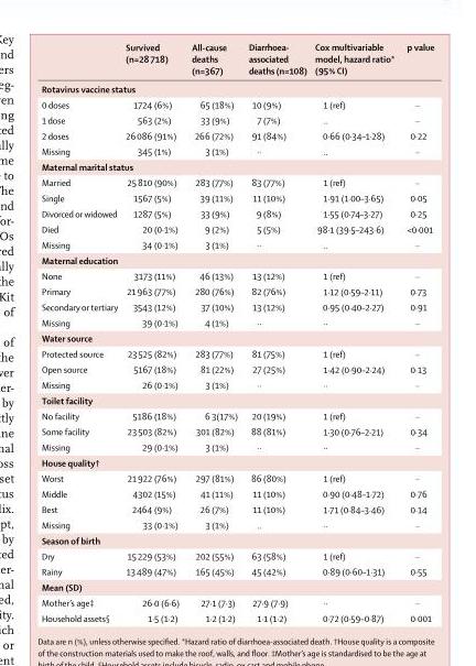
<table><thead><tr><td></td><td>Survived (n=28 718)</td><td>All-cause deaths (n=367)</td><td>Diarrhoea- associated deaths (n=108)</td><td>Cox multivariable model, hazard ratio* (95% CI)</td><td>p value</td></tr></thead><tbody><tr><td colspan="6">Rotavirus vaccine status</td></tr><tr><td>0 doses</td><td>1724 (6%)</td><td>65 (18%)</td><td>10 (9%)</td><td>1 (ref)</td><td>··</td></tr><tr><td>1 dose</td><td>563 (2%)</td><td>33 (9%)</td><td>7 (7%)</td><td>..</td><td>··</td></tr><tr><td>2 doses</td><td>26 086 (91%)</td><td>266 (72%)</td><td>91 (84%)</td><td>0·66 (0·34–1·28)</td><td>0·22</td></tr><tr><td>Missing</td><td>345 (1%)</td><td>3 (1%)</td><td>··</td><td>..</td><td>··</td></tr><tr><td colspan="6">Maternal marital status</td></tr><tr><td>Married</td><td>25 810 (90%)</td><td>283 (77%)</td><td>83 (77%)</td><td>1 (ref)</td><td>··</td></tr><tr><td>Single</td><td>1567 (5%)</td><td>39 (11%)</td><td>11 (10%)</td><td>1·91 (1·00–3·65)</td><td>0·05</td></tr><tr><td>Divorced or widowed</td><td>1287 (5%)</td><td>33 (9%)</td><td>9 (8%)</td><td>1·55 (0·74–3·27)</td><td>0·25</td></tr><tr><td>Died</td><td>20 (0·1%)</td><td>9 (2%)</td><td>5 (5%)</td><td>98·1 (39·5–243·6)</td><td>&lt;0·001</td></tr><tr><td>Missing</td><td>34 (0·1%)</td><td>3 (1%)</td><td>··</td><td>..</td><td>··</td></tr><tr><td colspan="6">Maternal education</td></tr><tr><td>None</td><td>3173 (11%)</td><td>46 (13%)</td><td>13 (12%)</td><td>1 (ref)</td><td>··</td></tr><tr><td>Primary</td><td>21 963 (77%)</td><td>280 (76%)</td><td>82 (76%)</td><td>1·12 (0·59–2·11)</td><td>0·73</td></tr><tr><td>Secondary or tertiary</td><td>3543 (12%)</td><td>37 (10%)</td><td>13 (12%)</td><td>0·95 (0·40–2·27)</td><td>0·91</td></tr><tr><td>Missing</td><td>39 (0·1%)</td><td>4 (1%)</td><td>··</td><td>··</td><td>··</td></tr><tr><td colspan="6">Water source</td></tr><tr><td>Protected source</td><td>23 525 (82%)</td><td>283 (77%)</td><td>81 (75%)</td><td>1 (ref)</td><td>··</td></tr><tr><td>Open source</td><td>5167 (18%)</td><td>81 (22%)</td><td>27 (25%)</td><td>1·42 (0·90–2·24)</td><td>0·13</td></tr><tr><td>Missing</td><td>26 (0·1%)</td><td>3 (1%)</td><td>··</td><td>··</td><td>··</td></tr><tr><td colspan="6">Toilet facility</td></tr><tr><td>No facility</td><td>5186 (18%)</td><td>6 3(17%)</td><td>20 (19%)</td><td>1 (ref)</td><td>··</td></tr><tr><td>Some facility</td><td>23 503 (82%)</td><td>301 (82%)</td><td>88 (81%)</td><td>1·30 (0·76–2·21)</td><td>0·34</td></tr><tr><td>Missing</td><td>29 (0·1%)</td><td>3 (1%)</td><td>··</td><td>··</td><td>··</td></tr><tr><td colspan="6">House quality†</td></tr><tr><td>Worst</td><td>21 922 (76%)</td><td>297 (81%)</td><td>86 (80%)</td><td>1 (ref)</td><td>··</td></tr><tr><td>Middle</td><td>4302 (15%)</td><td>41 (11%)</td><td>11 (10%)</td><td>0·90 (0·48–1·72)</td><td>0·76</td></tr><tr><td>Best</td><td>2464 (9%)</td><td>26 (7%)</td><td>11 (10%)</td><td>1·71 (0·84–3·46)</td><td>0·14</td></tr><tr><td>Missing</td><td>33 (0·1%)</td><td>3 (1%)</td><td>..</td><td>··</td><td>··</td></tr><tr><td colspan="6">Season of birth</td></tr><tr><td>Dry</td><td>15 229 (53%)</td><td>202 (55%)</td><td>63 (58%)</td><td>1 (ref)</td><td>··</td></tr><tr><td>Rainy</td><td>13 489 (47%)</td><td>165 (45%)</td><td>45 (42%)</td><td>0·89 (0·60–1·31)</td><td>0·55</td></tr><tr><td colspan="6">Mean (SD)</td></tr><tr><td>Mother’s age‡</td><td>26·0 (6·6)</td><td>27·1 (7·3)</td><td>27·9 (7·9)</td><td>··</td><td>··</td></tr><tr><td>Household assets§</td><td>1·5 (1·2)</td><td>1·2 (1·2)</td><td>1·1 (1·2)</td><td>0·72 (0·59–0·87)</td><td>0·001</td></tr></tbody></table>